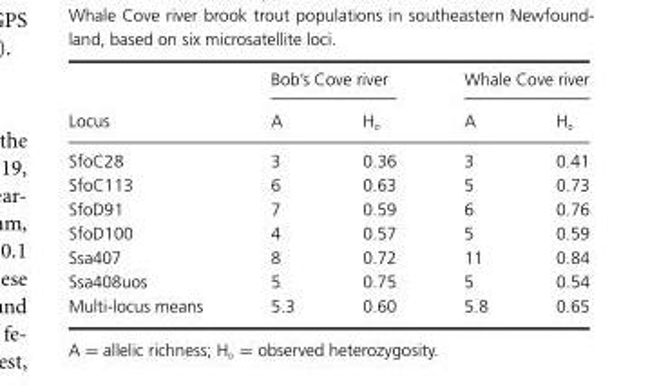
<table><thead><tr><td rowspan="2">Locus</td><td colspan="2">Bob’s Cove river</td><td colspan="2">Whale Cove river</td></tr><tr><td>A</td><td>H<sub>o</sub></td><td>A</td><td>H<sub>o</sub></td></tr></thead><tbody><tr><td>SfoC28</td><td>3</td><td>0.36</td><td>3</td><td>0.41</td></tr><tr><td>SfoC113</td><td>6</td><td>0.63</td><td>5</td><td>0.73</td></tr><tr><td>SfoD91</td><td>7</td><td>0.59</td><td>6</td><td>0.76</td></tr><tr><td>SfoD100</td><td>4</td><td>0.57</td><td>5</td><td>0.59</td></tr><tr><td>Ssa407</td><td>8</td><td>0.72</td><td>11</td><td>0.84</td></tr><tr><td>Ssa408uos</td><td>5</td><td>0.75</td><td>5</td><td>0.54</td></tr><tr><td>Multi-locus means</td><td>5.3</td><td>0.60</td><td>5.8</td><td>0.65</td></tr></tbody></table>